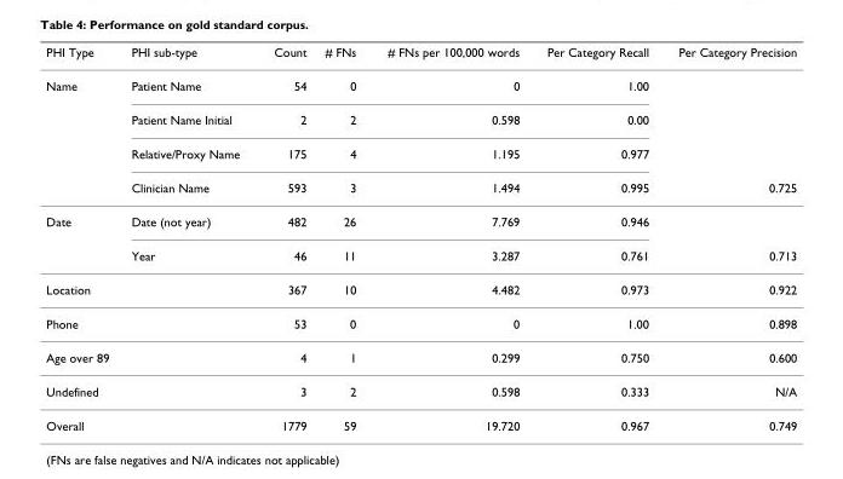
<table><thead><tr><td>PHI Type</td><td>PHI sub-type</td><td>Count</td><td># FNs</td><td># FNs per 100,000 words</td><td>Per Category Recall</td><td>Per Category Precision</td></tr></thead><tbody><tr><td rowspan="4">Name</td><td>Patient Name</td><td>54</td><td>0</td><td>0</td><td>1.00</td><td></td></tr><tr><td>Patient Name Initial</td><td>2</td><td>2</td><td>0.598</td><td>0.00</td><td></td></tr><tr><td>Relative/Proxy Name</td><td>175</td><td>4</td><td>1.195</td><td>0.977</td><td></td></tr><tr><td>Clinician Name</td><td>593</td><td>3</td><td>1.494</td><td>0.995</td><td>0.725</td></tr><tr><td rowspan="2">Date</td><td>Date (not year)</td><td>482</td><td>26</td><td>7.769</td><td>0.946</td><td></td></tr><tr><td>Year</td><td>46</td><td>11</td><td>3.287</td><td>0.761</td><td>0.713</td></tr><tr><td>Location</td><td></td><td>367</td><td>10</td><td>4.482</td><td>0.973</td><td>0.922</td></tr><tr><td>Phone</td><td></td><td>53</td><td>0</td><td>0</td><td>1.00</td><td>0.898</td></tr><tr><td>Age over 89</td><td></td><td>4</td><td>1</td><td>0.299</td><td>0.750</td><td>0.600</td></tr><tr><td>Undefined</td><td></td><td>3</td><td>2</td><td>0.598</td><td>0.333</td><td>N/A</td></tr><tr><td>Overall</td><td></td><td>1779</td><td>59</td><td>19.720</td><td>0.967</td><td>0.749</td></tr></tbody></table>